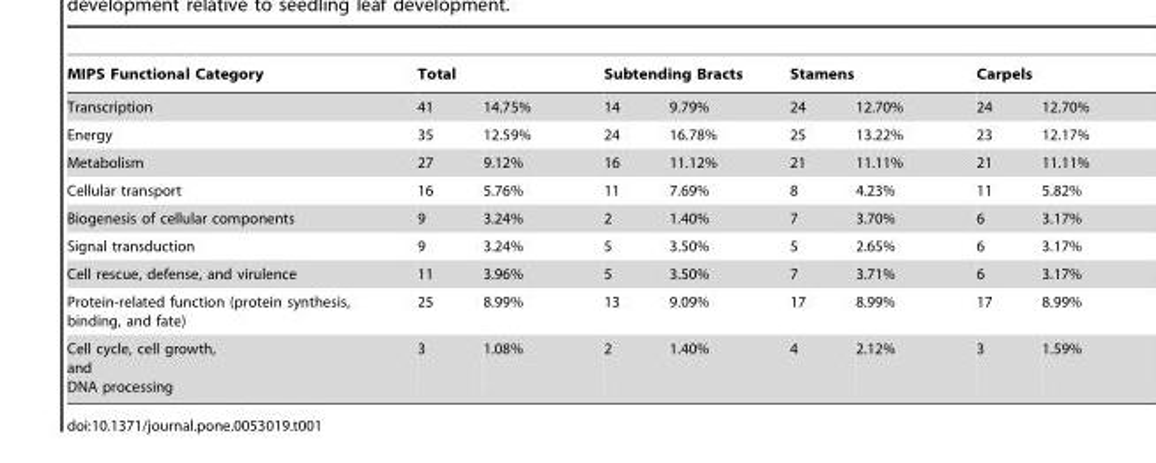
<table><thead><tr><td rowspan="2">MIPS Functional Category Transcription</td><td colspan="2">Total</td><td colspan="2">Subtending Bracts</td><td colspan="2">Stamens</td><td colspan="2">Carpels</td></tr><tr><td>41</td><td>14.75%</td><td>14</td><td>9.79%</td><td>24</td><td>12.70%</td><td>24</td><td>12.70%</td></tr></thead><tbody><tr><td>Energy</td><td>35</td><td>12.59%</td><td>24</td><td>16.78%</td><td>25</td><td>13.22%</td><td>23</td><td>12.17%</td></tr><tr><td>Metabolism</td><td>27</td><td>9.12%</td><td>16</td><td>11.12%</td><td>21</td><td>11.11%</td><td>21</td><td>11.11%</td></tr><tr><td>Cellular transport</td><td>16</td><td>5.76%</td><td>11</td><td>7.69%</td><td>8</td><td>4.23%</td><td>11</td><td>5.82%</td></tr><tr><td>Biogenesis of cellular components</td><td>9</td><td>3.24%</td><td>2</td><td>1.40%</td><td>7</td><td>3.70%</td><td>6</td><td>3.17%</td></tr><tr><td>Signal transduction</td><td>9</td><td>3.24%</td><td>5</td><td>3.50%</td><td>5</td><td>2.65%</td><td>6</td><td>3.17%</td></tr><tr><td>Cell rescue, defense, and virulence</td><td>11</td><td>3.96%</td><td>5</td><td>3.50%</td><td>7</td><td>3.71%</td><td>6</td><td>3.17%</td></tr><tr><td>Protein-related function (protein synthesis, binding, and fate)</td><td>25</td><td>8.99%</td><td>13</td><td>9.09%</td><td>17</td><td>8.99%</td><td>17</td><td>8.99%</td></tr><tr><td>Cell cycle, cell growth, and DNA processing</td><td>3</td><td>1.08%</td><td>2</td><td>1.40%</td><td>4</td><td>2.12%</td><td>3</td><td>1.59%</td></tr></tbody></table>